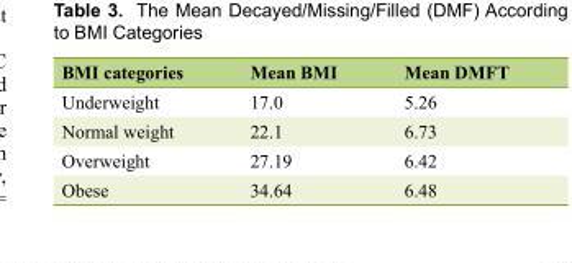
<table><thead><tr><td>BMI categories</td><td>Mean BMI</td><td>Mean DMFT</td></tr></thead><tbody><tr><td>Underweight</td><td>17.0</td><td>5.26</td></tr><tr><td>Normal weight</td><td>22.1</td><td>6.73</td></tr><tr><td>Overweight</td><td>27.19</td><td>6.42</td></tr><tr><td>Obese</td><td>34.64</td><td>6.48</td></tr></tbody></table>